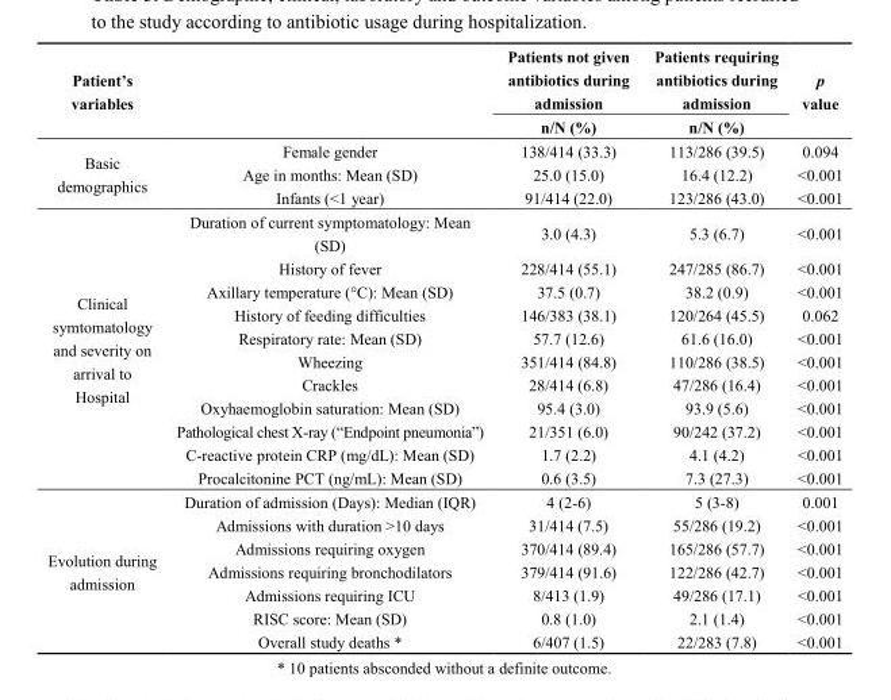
<table><thead><tr><td rowspan="2">Patient’s variables</td><td rowspan="2"></td><td rowspan="2">Patients not given antibiotics during admission n/N (%)</td><td rowspan="2">Patients requiring antibiotics during admission n/N (%)</td><td rowspan="2">p value</td></tr><tr></tr></thead><tbody><tr><td rowspan="3">Basic demographics</td><td>Female gender</td><td>138/414 (33.3)</td><td>113/286 (39.5)</td><td>0.094</td></tr><tr><td>Age in months: Mean (SD)</td><td>25.0 (15.0)</td><td>16.4 (12.2)</td><td>&lt;0.001</td></tr><tr><td>Infants (&lt;1 year)</td><td>91/414 (22.0)</td><td>123/286 (43.0)</td><td>&lt;0.001</td></tr><tr><td rowspan="11">Clinical symtomatology and severity on arrival to Hospital</td><td>Duration of current symptomatology: Mean (SD)</td><td>3.0 (4.3)</td><td>5.3 (6.7)</td><td>&lt;0.001</td></tr><tr><td>History of fever</td><td>228/414 (55.1)</td><td>247/285 (86.7)</td><td>&lt;0.001</td></tr><tr><td>Axillary temperature (°C): Mean (SD)</td><td>37.5 (0.7)</td><td>38.2 (0.9)</td><td>&lt;0.001</td></tr><tr><td>History of feeding difficulties</td><td>146/383 (38.1)</td><td>120/264 (45.5)</td><td>0.062</td></tr><tr><td>Respiratory rate: Mean (SD)</td><td>57.7 (12.6)</td><td>61.6 (16.0)</td><td>&lt;0.001</td></tr><tr><td>Wheezing</td><td>351/414 (84.8)</td><td>110/286 (38.5)</td><td>&lt;0.001</td></tr><tr><td>Crackles</td><td>28/414 (6.8)</td><td>47/286 (16.4)</td><td>&lt;0.001</td></tr><tr><td>Oxyhaemoglobin saturation: Mean (SD)</td><td>95.4 (3.0)</td><td>93.9 (5.6)</td><td>&lt;0.001</td></tr><tr><td>Pathological chest X-ray (―Endpoint pneumonia‖)</td><td>21/351 (6.0)</td><td>90/242 (37.2)</td><td>&lt;0.001</td></tr><tr><td>C-reactive protein CRP (mg/dL): Mean (SD)</td><td>1.7 (2.2)</td><td>4.1 (4.2)</td><td>&lt;0.001</td></tr><tr><td>Procalcitonine PCT (ng/mL): Mean (SD)</td><td>0.6 (3.5)</td><td>7.3 (27.3)</td><td>&lt;0.001</td></tr><tr><td rowspan="7">Evolution during admission</td><td>Duration of admission (Days): Median (IQR)</td><td>4 (2-6)</td><td>5 (3-8)</td><td>0.001</td></tr><tr><td>Admissions with duration &gt;10 days</td><td>31/414 (7.5)</td><td>55/286 (19.2)</td><td>&lt;0.001</td></tr><tr><td>Admissions requiring oxygen</td><td>370/414 (89.4)</td><td>165/286 (57.7)</td><td>&lt;0.001</td></tr><tr><td>Admissions requiring bronchodilators</td><td>379/414 (91.6)</td><td>122/286 (42.7)</td><td>&lt;0.001</td></tr><tr><td>Admissions requiring ICU</td><td>8/413 (1.9)</td><td>49/286 (17.1)</td><td>&lt;0.001</td></tr><tr><td>RISC score: Mean (SD)</td><td>0.8 (1.0)</td><td>2.1 (1.4)</td><td>&lt;0.001</td></tr><tr><td>Overall study deaths *</td><td>6/407 (1.5)</td><td>22/283 (7.8)</td><td>&lt;0.001</td></tr></tbody></table>